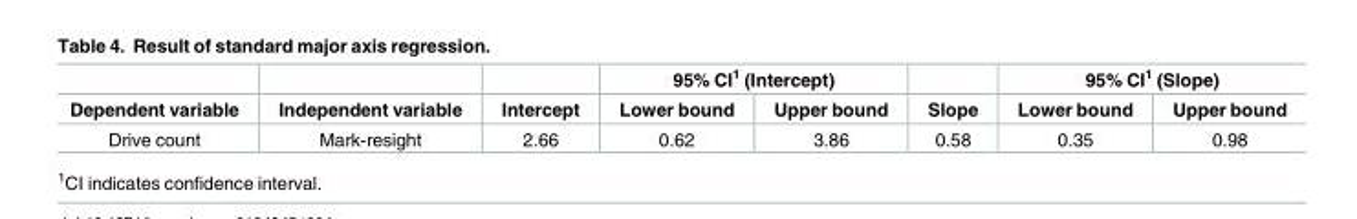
<table><thead><tr><td rowspan="2">Dependent variable</td><td rowspan="2">Independent variable</td><td rowspan="2">Intercept</td><td colspan="2">95% CI<sup>1</sup> (Intercept)</td><td rowspan="2">Slope</td><td colspan="2">95% CI<sup>1</sup> (Slope)</td></tr><tr><td>Lower bound</td><td>Upper bound</td><td>Lower bound</td><td>Upper bound</td></tr></thead><tbody><tr><td>Drive count</td><td>Mark-resight</td><td>2.66</td><td>0.62</td><td>3.86</td><td>0.58</td><td>0.35</td><td>0.98</td></tr></tbody></table>